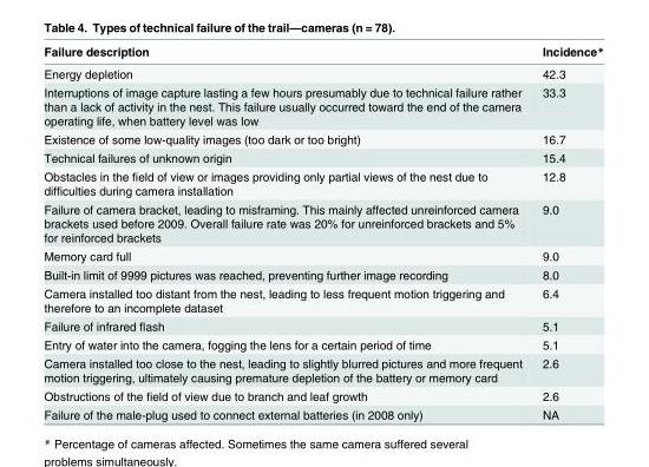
<table><thead><tr><td>Failure description</td><td>Incidence*</td></tr></thead><tbody><tr><td>Energy depletion</td><td>42.3</td></tr><tr><td>Interruptions of image capture lasting a few hours presumably due to technical failure rather than a lack of activity in the nest. This failure usually occurred toward the end of the camera operating life, when battery level was low</td><td>33.3</td></tr><tr><td>Existence of some low-quality images (too dark or too bright)</td><td>16.7</td></tr><tr><td>Technical failures of unknown origin</td><td>15.4</td></tr><tr><td>Obstacles in the field of view or images providing only partial views of the nest due to difficulties during camera installation</td><td>12.8</td></tr><tr><td>Failure of camera bracket, leading to misframing. This mainly affected unreinforced camera brackets used before 2009. Overall failure rate was 20% for unreinforced brackets and 5% for reinforced brackets</td><td>9.0</td></tr><tr><td>Memory card full</td><td>9.0</td></tr><tr><td>Built-in limit of 9999 pictures was reached, preventing further image recording</td><td>8.0</td></tr><tr><td>Camera installed too distant from the nest, leading to less frequent motion triggering and therefore to an incomplete dataset</td><td>6.4</td></tr><tr><td>Failure of infrared flash</td><td>5.1</td></tr><tr><td>Entry of water into the camera, fogging the lens for a certain period of time</td><td>5.1</td></tr><tr><td>Camera installed too close to the nest, leading to slightly blurred pictures and more frequent motion triggering, ultimately causing premature depletion of the battery or memory card</td><td>2.6</td></tr><tr><td>Obstructions of the field of view due to branch and leaf growth</td><td>2.6</td></tr><tr><td>Failure of the male-plug used to connect external batteries (in 2008 only)</td><td>NA</td></tr></tbody></table>